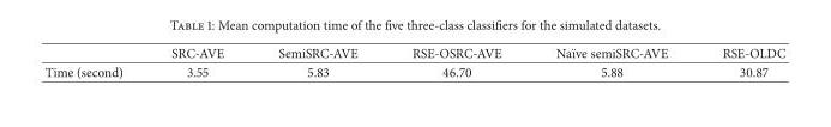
<table><thead><tr><td></td><td>SRC-AVE</td><td>SemiSRC-AVE</td><td>RSE-OSRC-AVE</td><td>Na¨ıve semiSRC-AVE</td><td>RSE-OLDC</td></tr></thead><tbody><tr><td>Time (second)</td><td>3.55</td><td>5.83</td><td>46.70</td><td>5.88</td><td>30.87</td></tr></tbody></table>